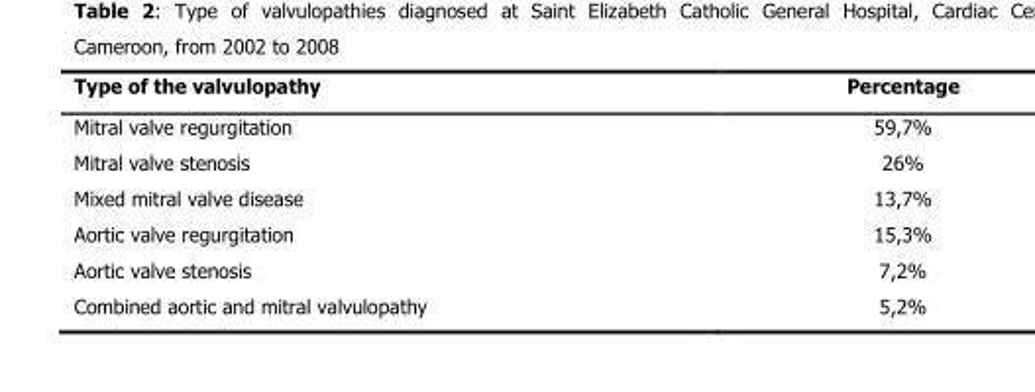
<table><thead><tr><td>Type of the valvulopathy</td><td>Percentage</td></tr></thead><tbody><tr><td>Mitral valve regurgitation</td><td>59,7%</td></tr><tr><td>Mitral valve stenosis</td><td>26%</td></tr><tr><td>Mixed mitral valve disease</td><td>13,7%</td></tr><tr><td>Aortic valve regurgitation</td><td>15,3%</td></tr><tr><td>Aortic valve stenosis</td><td>7,2%</td></tr><tr><td>Combined aortic and mitral valvulopathy</td><td>5,2%</td></tr></tbody></table>